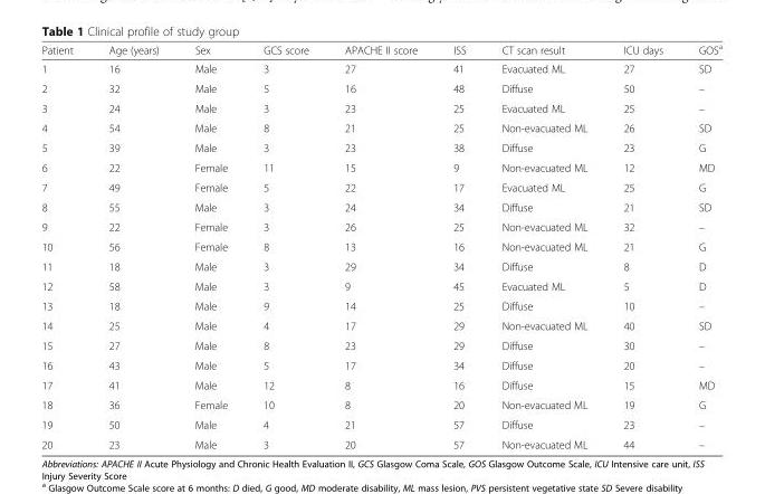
<table><thead><tr><td>Patient</td><td>Age (years)</td><td>Sex</td><td>GCS score</td><td>APACHE II score</td><td>ISS</td><td>CT scan result</td><td>ICU days</td><td>GOS<sup>a</sup></td></tr></thead><tbody><tr><td>1</td><td>16</td><td>Male</td><td>3</td><td>27</td><td>41</td><td>Evacuated ML</td><td>27</td><td>SD</td></tr><tr><td>2</td><td>32</td><td>Male</td><td>5</td><td>16</td><td>48</td><td>Diffuse</td><td>50</td><td>–</td></tr><tr><td>3</td><td>24</td><td>Male</td><td>3</td><td>23</td><td>25</td><td>Evacuated ML</td><td>25</td><td>–</td></tr><tr><td>4</td><td>54</td><td>Male</td><td>8</td><td>21</td><td>25</td><td>Non-evacuated ML</td><td>26</td><td>SD</td></tr><tr><td>5</td><td>39</td><td>Male</td><td>3</td><td>23</td><td>38</td><td>Diffuse</td><td>23</td><td>G</td></tr><tr><td>6</td><td>22</td><td>Female</td><td>11</td><td>15</td><td>9</td><td>Non-evacuated ML</td><td>12</td><td>MD</td></tr><tr><td>7</td><td>49</td><td>Female</td><td>5</td><td>22</td><td>17</td><td>Evacuated ML</td><td>25</td><td>G</td></tr><tr><td>8</td><td>55</td><td>Male</td><td>3</td><td>24</td><td>34</td><td>Diffuse</td><td>21</td><td>SD</td></tr><tr><td>9</td><td>22</td><td>Female</td><td>3</td><td>26</td><td>25</td><td>Non-evacuated ML</td><td>32</td><td>–</td></tr><tr><td>10</td><td>56</td><td>Female</td><td>8</td><td>13</td><td>16</td><td>Non-evacuated ML</td><td>21</td><td>G</td></tr><tr><td>11</td><td>18</td><td>Male</td><td>3</td><td>29</td><td>34</td><td>Diffuse</td><td>8</td><td>D</td></tr><tr><td>12</td><td>58</td><td>Male</td><td>3</td><td>9</td><td>45</td><td>Evacuated ML</td><td>5</td><td>D</td></tr><tr><td>13</td><td>18</td><td>Male</td><td>9</td><td>14</td><td>25</td><td>Diffuse</td><td>10</td><td>–</td></tr><tr><td>14</td><td>25</td><td>Male</td><td>4</td><td>17</td><td>29</td><td>Non-evacuated ML</td><td>40</td><td>SD</td></tr><tr><td>15</td><td>27</td><td>Male</td><td>8</td><td>23</td><td>29</td><td>Diffuse</td><td>30</td><td>–</td></tr><tr><td>16</td><td>43</td><td>Male</td><td>5</td><td>17</td><td>34</td><td>Diffuse</td><td>20</td><td>–</td></tr><tr><td>17</td><td>41</td><td>Male</td><td>12</td><td>8</td><td>16</td><td>Diffuse</td><td>15</td><td>MD</td></tr><tr><td>18</td><td>36</td><td>Female</td><td>10</td><td>8</td><td>20</td><td>Non-evacuated ML</td><td>19</td><td>G</td></tr><tr><td>19</td><td>50</td><td>Male</td><td>4</td><td>21</td><td>57</td><td>Diffuse</td><td>23</td><td>–</td></tr><tr><td>20</td><td>23</td><td>Male</td><td>3</td><td>20</td><td>57</td><td>Non-evacuated ML</td><td>44</td><td>–</td></tr></tbody></table>